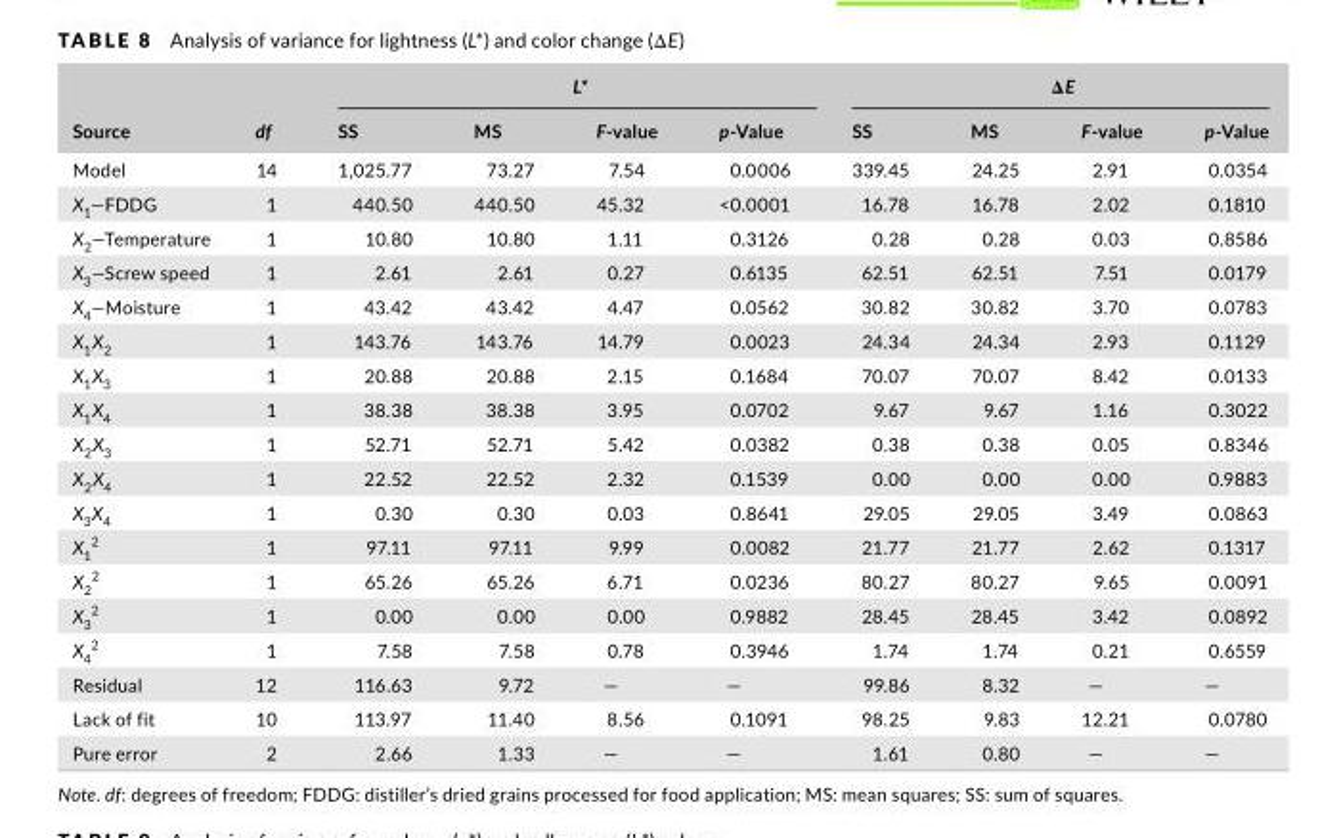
<table><thead><tr><td rowspan="2">Source</td><td rowspan="2">df</td><td colspan="4">L*</td><td colspan="4">ΔE</td></tr><tr><td>SS</td><td>MS</td><td>F- value</td><td>p- Value</td><td>SS</td><td>MS</td><td>F- value</td><td>p- Value</td></tr></thead><tbody><tr><td>Model</td><td>14</td><td>1,025.77</td><td>73.27</td><td>7.54</td><td>0.0006</td><td>339.45</td><td>24.25</td><td>2.91</td><td>0.0354</td></tr><tr><td>X<sub>1</sub>—FDDG</td><td>1</td><td>440.50</td><td>440.50</td><td>45.32</td><td>&lt;0.0001</td><td>16.78</td><td>16.78</td><td>2.02</td><td>0.1810</td></tr><tr><td>X<sub>2</sub>—Temperature</td><td>1</td><td>10.80</td><td>10.80</td><td>1.11</td><td>0.3126</td><td>0.28</td><td>0.28</td><td>0.03</td><td>0.8586</td></tr><tr><td>X<sub>3</sub>—Screw speed</td><td>1</td><td>2.61</td><td>2.61</td><td>0.27</td><td>0.6135</td><td>62.51</td><td>62.51</td><td>7.51</td><td>0.0179</td></tr><tr><td>X<sub>4</sub>—Moisture</td><td>1</td><td>43.42</td><td>43.42</td><td>4.47</td><td>0.0562</td><td>30.82</td><td>30.82</td><td>3.70</td><td>0.0783</td></tr><tr><td>X<sub>1</sub>X<sub>2</sub></td><td>1</td><td>143.76</td><td>143.76</td><td>14.79</td><td>0.0023</td><td>24.34</td><td>24.34</td><td>2.93</td><td>0.1129</td></tr><tr><td>X<sub>1</sub>X<sub>3</sub></td><td>1</td><td>20.88</td><td>20.88</td><td>2.15</td><td>0.1684</td><td>70.07</td><td>70.07</td><td>8.42</td><td>0.0133</td></tr><tr><td>X<sub>1</sub>X<sub>4</sub></td><td>1</td><td>38.38</td><td>38.38</td><td>3.95</td><td>0.0702</td><td>9.67</td><td>9.67</td><td>1.16</td><td>0.3022</td></tr><tr><td>X<sub>2</sub>X<sub>3</sub></td><td>1</td><td>52.71</td><td>52.71</td><td>5.42</td><td>0.0382</td><td>0.38</td><td>0.38</td><td>0.05</td><td>0.8346</td></tr><tr><td>X<sub>2</sub>X<sub>4</sub></td><td>1</td><td>22.52</td><td>22.52</td><td>2.32</td><td>0.1539</td><td>0.00</td><td>0.00</td><td>0.00</td><td>0.9883</td></tr><tr><td>X<sub>3</sub>X<sub>4</sub></td><td>1</td><td>0.30</td><td>0.30</td><td>0.03</td><td>0.8641</td><td>29.05</td><td>29.05</td><td>3.49</td><td>0.0863</td></tr><tr><td>X<sub>1</sub> <sup>2</sup></td><td>1</td><td>97.11</td><td>97.11</td><td>9.99</td><td>0.0082</td><td>21.77</td><td>21.77</td><td>2.62</td><td>0.1317</td></tr><tr><td>X<sub>2</sub> <sup>2</sup></td><td>1</td><td>65.26</td><td>65.26</td><td>6.71</td><td>0.0236</td><td>80.27</td><td>80.27</td><td>9.65</td><td>0.0091</td></tr><tr><td>X<sub>3</sub> <sup>2</sup></td><td>1</td><td>0.00</td><td>0.00</td><td>0.00</td><td>0.9882</td><td>28.45</td><td>28.45</td><td>3.42</td><td>0.0892</td></tr><tr><td>X<sub>4</sub> <sup>2</sup></td><td>1</td><td>7.58</td><td>7.58</td><td>0.78</td><td>0.3946</td><td>1.74</td><td>1.74</td><td>0.21</td><td>0.6559</td></tr><tr><td>Residual</td><td>12</td><td>116.63</td><td>9.72</td><td>—</td><td>—</td><td>99.86</td><td>8.32</td><td>—</td><td>—</td></tr><tr><td>Lack of fit</td><td>10</td><td>113.97</td><td>11.40</td><td>8.56</td><td>0.1091</td><td>98.25</td><td>9.83</td><td>12.21</td><td>0.0780</td></tr><tr><td>Pure error</td><td>2</td><td>2.66</td><td>1.33</td><td>—</td><td>—</td><td>1.61</td><td>0.80</td><td>—</td><td>—</td></tr></tbody></table>